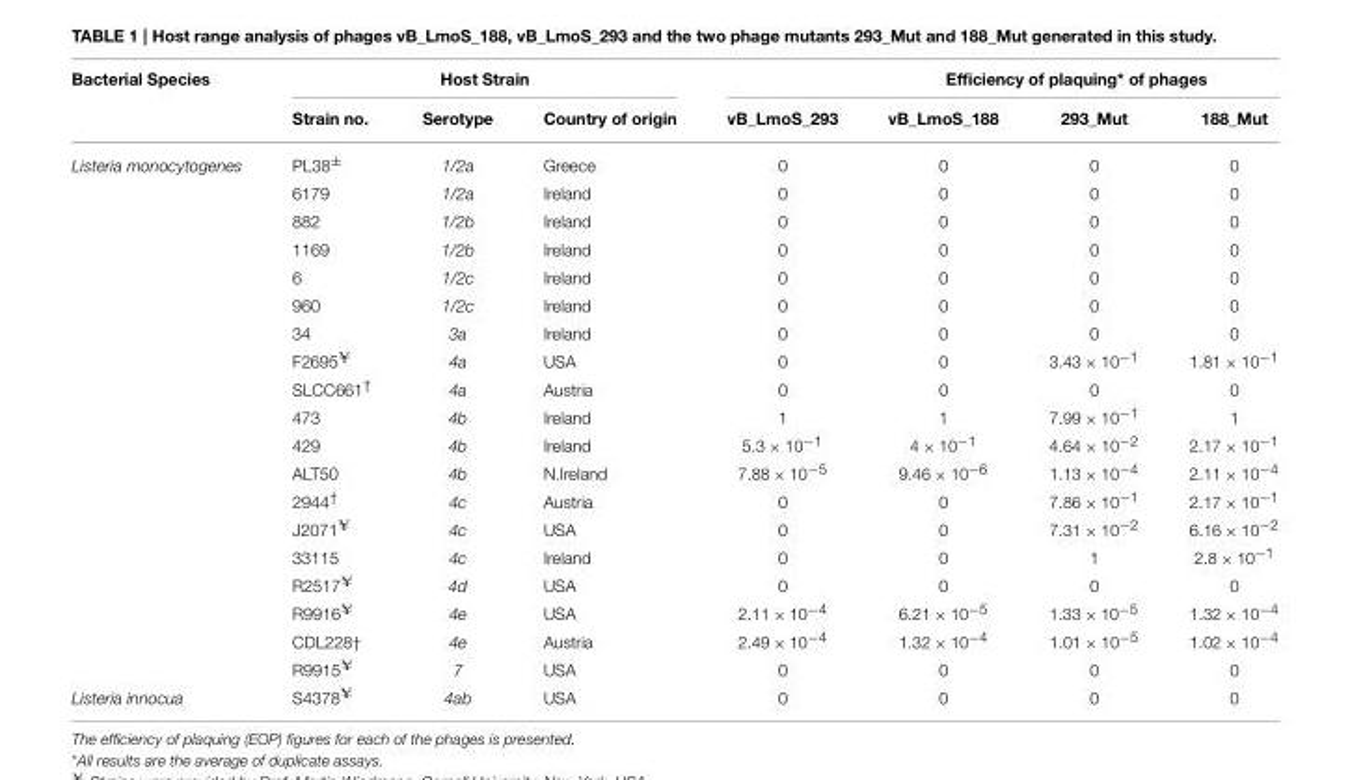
<table><thead><tr><td rowspan="2">Bacterial Species</td><td colspan="3">Host Strain</td><td rowspan="2">vB_LmoS_293</td><td colspan="3">Efficiency of plaquing* of phages</td></tr><tr><td>Strain no.</td><td>Serotype</td><td>Country of origin</td><td>vB_LmoS_188</td><td>293_Mut</td><td>188_Mut</td></tr></thead><tbody><tr><td rowspan="19">Listeria monocytogenes</td><td>PL38<sup>±</sup></td><td>1/2a</td><td>Greece</td><td>0</td><td>0</td><td>0</td><td>0</td></tr><tr><td>6179</td><td>1/2a</td><td>Ireland</td><td>0</td><td>0</td><td>0</td><td>0</td></tr><tr><td>882</td><td>1/2b</td><td>Ireland</td><td>0</td><td>0</td><td>0</td><td>0</td></tr><tr><td>1169</td><td>1/2b</td><td>Ireland</td><td>0</td><td>0</td><td>0</td><td>0</td></tr><tr><td>6</td><td>1/2c</td><td>Ireland</td><td>0</td><td>0</td><td>0</td><td>0</td></tr><tr><td>960</td><td>1/2c</td><td>Ireland</td><td>0</td><td>0</td><td>0</td><td>0</td></tr><tr><td>34</td><td>3a</td><td>Ireland</td><td>0</td><td>0</td><td>0</td><td>0</td></tr><tr><td>F2695<sup>¥</sup></td><td>4a</td><td>USA</td><td>0</td><td>0</td><td>3.43 × 10<sup>−1</sup></td><td>1.81 × 10<sup>−1</sup></td></tr><tr><td>SLCC661<sup>†</sup></td><td>4a</td><td>Austria</td><td>0</td><td>0</td><td>0</td><td>0</td></tr><tr><td>473</td><td>4b</td><td>Ireland</td><td>1</td><td>1</td><td>7.99 × 10<sup>−1</sup></td><td>1</td></tr><tr><td>429</td><td>4b</td><td>Ireland</td><td>5.3 × 10<sup>−1</sup></td><td>4 × 10<sup>−1</sup></td><td>4.64 × 10<sup>−2</sup></td><td>2.17 × 10<sup>−1</sup></td></tr><tr><td>ALT50</td><td>4b</td><td>N.Ireland</td><td>7.88 × 10<sup>−5</sup></td><td>9.46 × 10<sup>−6</sup></td><td>1.13 × 10<sup>−4</sup></td><td>2.11 × 10<sup>−4</sup></td></tr><tr><td>2944<sup>†</sup></td><td>4c</td><td>Austria</td><td>0</td><td>0</td><td>7.86 × 10<sup>−1</sup></td><td>2.17 × 10<sup>−1</sup></td></tr><tr><td>J2071<sup>¥</sup></td><td>4c</td><td>USA</td><td>0</td><td>0</td><td>7.31 × 10<sup>−2</sup></td><td>6.16 × 10<sup>−2</sup></td></tr><tr><td>33115</td><td>4c</td><td>Ireland</td><td>0</td><td>0</td><td>1</td><td>2.8 × 10<sup>−1</sup></td></tr><tr><td>R2517<sup>¥</sup></td><td>4d</td><td>USA</td><td>0</td><td>0</td><td>0</td><td>0</td></tr><tr><td>R9916<sup>¥</sup></td><td>4e</td><td>USA</td><td>2.11 × 10<sup>−4</sup></td><td>6.21 × 10<sup>−5</sup></td><td>1.33 × 10<sup>−5</sup></td><td>1.32 × 10<sup>−4</sup></td></tr><tr><td>CDL228<sup>†</sup></td><td>4e</td><td>Austria</td><td>2.49 × 10<sup>−4</sup></td><td>1.32 × 10<sup>−4</sup></td><td>1.01 × 10<sup>−5</sup></td><td>1.02 × 10<sup>−4</sup></td></tr><tr><td>R9915<sup>¥</sup></td><td>7</td><td>USA</td><td>0</td><td>0</td><td>0</td><td>0</td></tr><tr><td>Listeria innocua</td><td>S4378<sup>¥</sup></td><td>4ab</td><td>USA</td><td>0</td><td>0</td><td>0</td><td>0</td></tr></tbody></table>